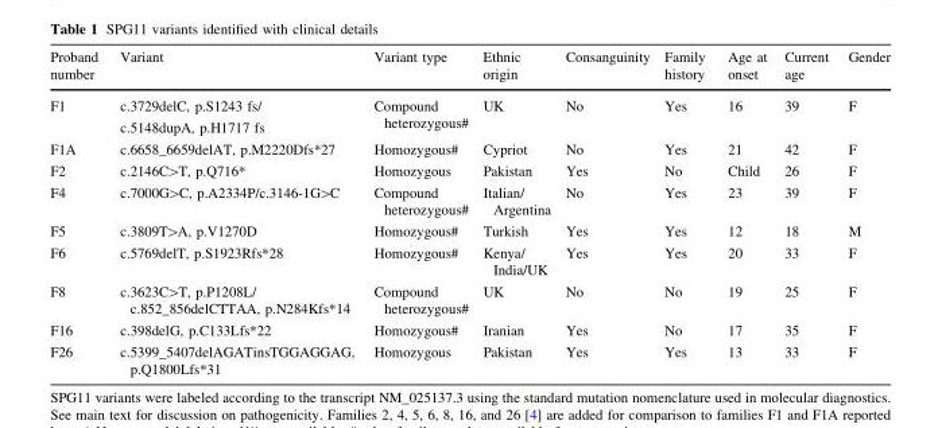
<table><thead><tr><td>Proband number</td><td>Variant</td><td>Variant type</td><td>Ethnic origin</td><td>Consanguinity</td><td>Family history</td><td>Age at onset</td><td>Current age</td><td>Gender</td></tr></thead><tbody><tr><td rowspan="2">F1</td><td>c.3729delC, p.S1243 fs/</td><td rowspan="2">Compound heterozygous#</td><td rowspan="2">UK</td><td rowspan="2">No</td><td rowspan="2">Yes</td><td rowspan="2">16</td><td rowspan="2">39</td><td rowspan="2">F</td></tr><tr><td>c.5148dupA, p.H1717 fs</td></tr><tr><td>F1A</td><td>c.6658_6659delAT, p.M2220Dfs*27</td><td>Homozygous#</td><td>Cypriot</td><td>No</td><td>Yes</td><td>21</td><td>42</td><td>F</td></tr><tr><td>F2</td><td>c.2146C&gt;T, p.Q716*</td><td>Homozygous</td><td>Pakistan</td><td>Yes</td><td>No</td><td>Child</td><td>26</td><td>F</td></tr><tr><td>F4</td><td>c.7000G&gt;C, p.A2334P/c.3146-1G&gt;C</td><td>Compound heterozygous#</td><td>Italian/ Argentina</td><td>No</td><td>Yes</td><td>23</td><td>39</td><td>F</td></tr><tr><td>F5</td><td>c.3809T&gt;A, p.V1270D</td><td>Homozygous#</td><td>Turkish</td><td>Yes</td><td>Yes</td><td>12</td><td>18</td><td>M</td></tr><tr><td>F6</td><td>c.5769delT, p.S1923Rfs*28</td><td>Homozygous#</td><td>Kenya/ India/UK</td><td>Yes</td><td>Yes</td><td>20</td><td>33</td><td>F</td></tr><tr><td>F8</td><td>c.3623C&gt;T, p.P1208L/ c.852_856delCTTAA, p.N284Kfs*14</td><td>Compound heterozygous#</td><td>UK</td><td>No</td><td>No</td><td>19</td><td>25</td><td>F</td></tr><tr><td>F16</td><td>c.398delG, p.C133Lfs*22</td><td>Homozygous#</td><td>Iranian</td><td>Yes</td><td>No</td><td>17</td><td>35</td><td>F</td></tr><tr><td>F26</td><td>c.5399_5407delAGATinsTGGAGGAG, p.Q1800Lfs*31</td><td>Homozygous</td><td>Pakistan</td><td>Yes</td><td>Yes</td><td>13</td><td>33</td><td>F</td></tr></tbody></table>